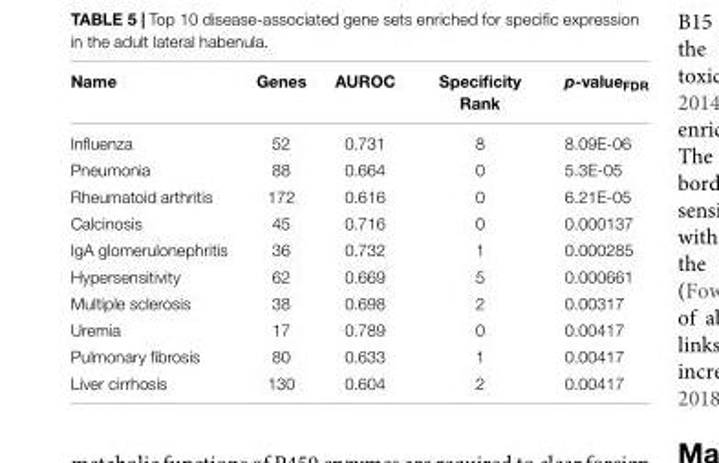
<table><thead><tr><td>Name</td><td>Genes</td><td>AUROC</td><td>Specificity Rank</td><td>p-value<sub>FDR</sub></td></tr></thead><tbody><tr><td>Influenza</td><td>52</td><td>0.731</td><td>8</td><td>8.09E-06</td></tr><tr><td>Pneumonia</td><td>88</td><td>0.664</td><td>0</td><td>5.3E-05</td></tr><tr><td>Rheumatoid arthritis</td><td>172</td><td>0.616</td><td>0</td><td>6.21E-05</td></tr><tr><td>Calcinosis</td><td>45</td><td>0.716</td><td>0</td><td>0.000137</td></tr><tr><td>IgA glomerulonephritis</td><td>36</td><td>0.732</td><td>1</td><td>0.000285</td></tr><tr><td>Hypersensitivity</td><td>62</td><td>0.669</td><td>5</td><td>0.000661</td></tr><tr><td>Multiple sclerosis</td><td>38</td><td>0.698</td><td>2</td><td>0.00317</td></tr><tr><td>Uremia</td><td>17</td><td>0.789</td><td>0</td><td>0.00417</td></tr><tr><td>Pulmonary fibrosis</td><td>80</td><td>0.633</td><td>1</td><td>0.00417</td></tr><tr><td>Liver cirrhosis</td><td>130</td><td>0.604</td><td>2</td><td>0.00417</td></tr></tbody></table>